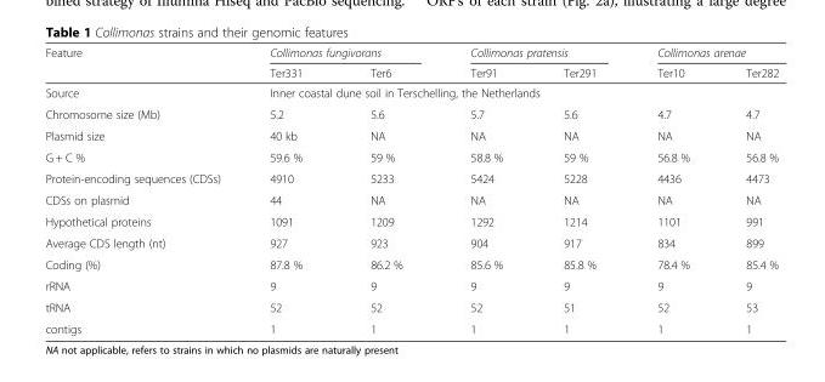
<table><thead><tr><td rowspan="2">Feature</td><td colspan="2">Collimonas fungivorans</td><td colspan="2">Collimonas pratensis</td><td colspan="2">Collimonas arenae</td></tr><tr><td>Ter331</td><td>Ter6</td><td>Ter91</td><td>Ter291</td><td>Ter10</td><td>Ter282</td></tr></thead><tbody><tr><td>Source</td><td colspan="6">Inner coastal dune soil in Terschelling, the Netherlands</td></tr><tr><td>Chromosome size (Mb)</td><td>5.2</td><td>5.6</td><td>5.7</td><td>5.6</td><td>4.7</td><td>4.7</td></tr><tr><td>Plasmid size</td><td>40 kb</td><td>NA</td><td>NA</td><td>NA</td><td>NA</td><td>NA</td></tr><tr><td>G + C %</td><td>59.6 %</td><td>59 %</td><td>58.8 %</td><td>59 %</td><td>56.8 %</td><td>56.8 %</td></tr><tr><td>Protein-encoding sequences (CDSs)</td><td>4910</td><td>5233</td><td>5424</td><td>5228</td><td>4436</td><td>4473</td></tr><tr><td>CDSs on plasmid</td><td>44</td><td>NA</td><td>NA</td><td>NA</td><td>NA</td><td>NA</td></tr><tr><td>Hypothetical proteins</td><td>1091</td><td>1209</td><td>1292</td><td>1214</td><td>1101</td><td>991</td></tr><tr><td>Average CDS length (nt)</td><td>927</td><td>923</td><td>904</td><td>917</td><td>834</td><td>899</td></tr><tr><td>Coding (%)</td><td>87.8 %</td><td>86.2 %</td><td>85.6 %</td><td>85.8 %</td><td>78.4 %</td><td>85.4 %</td></tr><tr><td>rRNA</td><td>9</td><td>9</td><td>9</td><td>9</td><td>9</td><td>9</td></tr><tr><td>tRNA</td><td>52</td><td>52</td><td>52</td><td>51</td><td>52</td><td>53</td></tr><tr><td>contigs</td><td>1</td><td>1</td><td>1</td><td>1</td><td>1</td><td>1</td></tr></tbody></table>